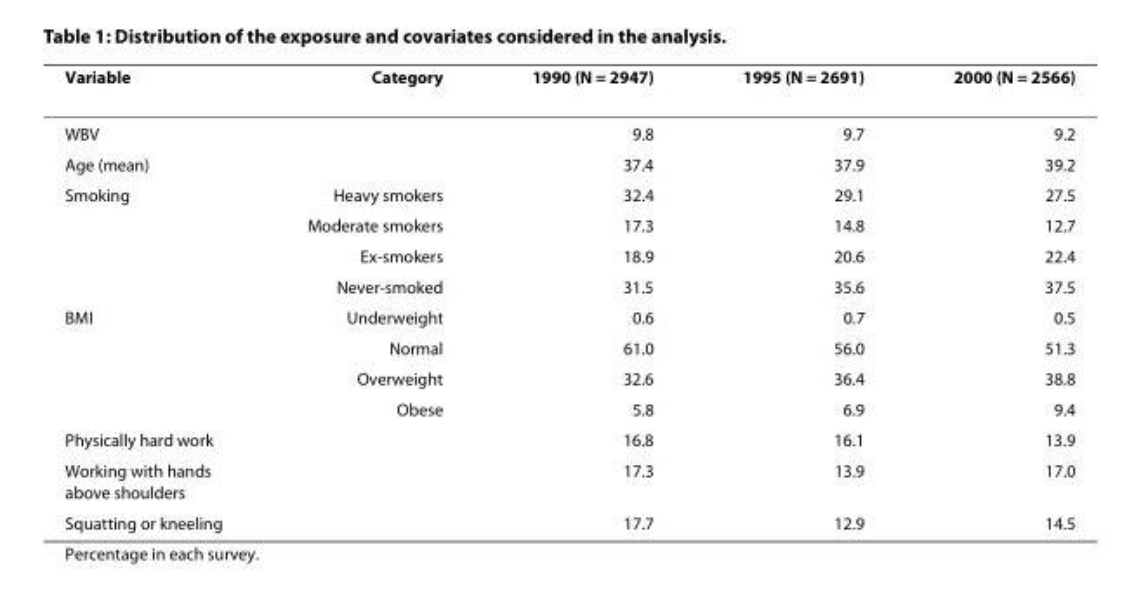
<table><thead><tr><td>Variable</td><td>Category</td><td>1990 (N = 2947)</td><td>1995 (N = 2691)</td><td>2000 (N = 2566)</td></tr></thead><tbody><tr><td>WBV</td><td></td><td>9.8</td><td>9.7</td><td>9.2</td></tr><tr><td>Age (mean)</td><td></td><td>37.4</td><td>37.9</td><td>39.2</td></tr><tr><td rowspan="4">Smoking</td><td>Heavy smokers</td><td>32.4</td><td>29.1</td><td>27.5</td></tr><tr><td>Moderate smokers</td><td>17.3</td><td>14.8</td><td>12.7</td></tr><tr><td>Ex-smokers</td><td>18.9</td><td>20.6</td><td>22.4</td></tr><tr><td>Never-smoked</td><td>31.5</td><td>35.6</td><td>37.5</td></tr><tr><td rowspan="4">BMI</td><td>Underweight</td><td>0.6</td><td>0.7</td><td>0.5</td></tr><tr><td>Normal</td><td>61.0</td><td>56.0</td><td>51.3</td></tr><tr><td>Overweight</td><td>32.6</td><td>36.4</td><td>38.8</td></tr><tr><td>Obese</td><td>5.8</td><td>6.9</td><td>9.4</td></tr><tr><td>Physically hard work</td><td></td><td>16.8</td><td>16.1</td><td>13.9</td></tr><tr><td>Working with hands above shoulders</td><td></td><td>17.3</td><td>13.9</td><td>17.0</td></tr><tr><td>Squatting or kneeling</td><td></td><td>17.7</td><td>12.9</td><td>14.5</td></tr></tbody></table>